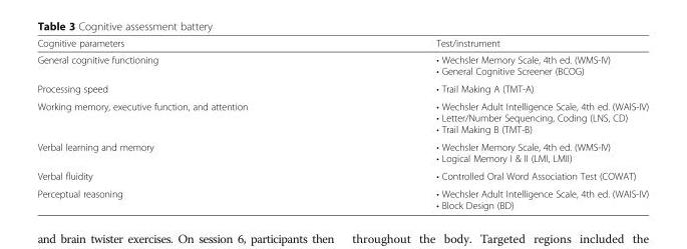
<table><thead><tr><td>Cognitive parameters</td><td>Test/instrument</td></tr></thead><tbody><tr><td>General cognitive functioning</td><td>• Wechsler Memory Scale, 4th ed. (WMS-IV) • General Cognitive Screener (BCOG)</td></tr><tr><td>Processing speed</td><td>• Trail Making A (TMT-A)</td></tr><tr><td>Working memory, executive function, and attention</td><td>• Wechsler Adult Intelligence Scale, 4th ed. (WAIS-IV) • Letter/Number Sequencing, Coding (LNS, CD) • Trail Making B (TMT-B)</td></tr><tr><td>Verbal learning and memory</td><td>• Wechsler Memory Scale, 4th ed. (WMS-IV) • Logical Memory I &amp; II (LMI, LMII)</td></tr><tr><td>Verbal fluidity</td><td>• Controlled Oral Word Association Test (COWAT)</td></tr><tr><td>Perceptual reasoning</td><td>• Wechsler Adult Intelligence Scale, 4th ed. (WAIS-IV) • Block Design (BD)</td></tr></tbody></table>